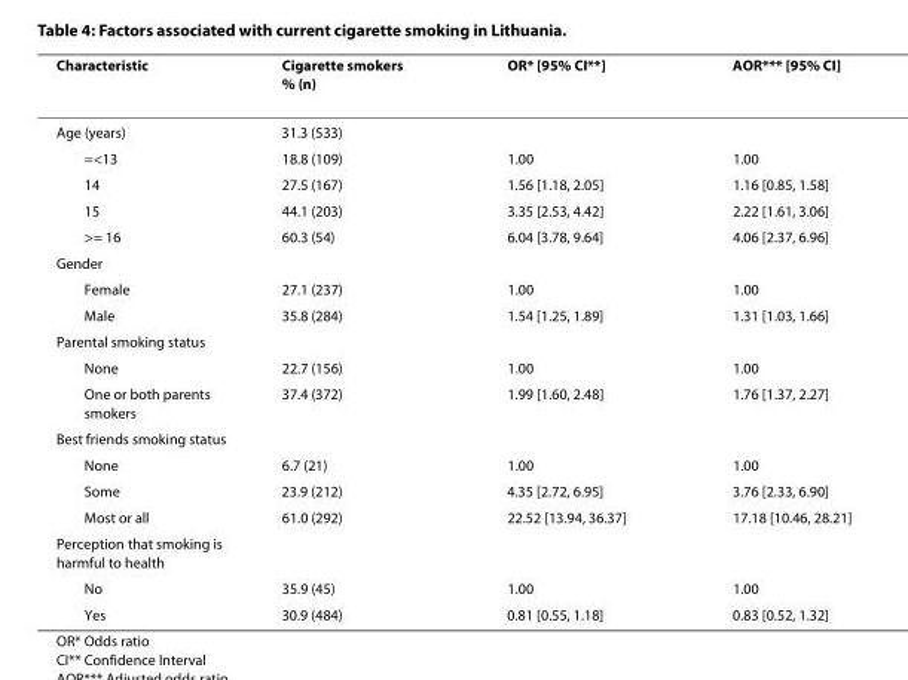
<table><thead><tr><td>Characteristic</td><td>Cigarette smokers % (n)</td><td>OR* [95% CI**]</td><td>AOR*** [95% CI]</td></tr></thead><tbody><tr><td>Age (years)</td><td>31.3 (533)</td><td></td><td></td></tr><tr><td>=&lt;13</td><td>18.8 (109)</td><td>1.00</td><td>1.00</td></tr><tr><td>14</td><td>27.5 (167)</td><td>1.56 [1.18, 2.05]</td><td>1.16 [0.85, 1.58]</td></tr><tr><td>15</td><td>44.1 (203)</td><td>3.35 [2.53, 4.42]</td><td>2.22 [1.61, 3.06]</td></tr><tr><td>&gt;= 16</td><td>60.3 (54)</td><td>6.04 [3.78, 9.64]</td><td>4.06 [2.37, 6.96]</td></tr><tr><td colspan="4">Gender</td></tr><tr><td>Female</td><td>27.1 (237)</td><td>1.00</td><td>1.00</td></tr><tr><td>Male</td><td>35.8 (284)</td><td>1.54 [1.25, 1.89]</td><td>1.31 [1.03, 1.66]</td></tr><tr><td colspan="4">Parental smoking status</td></tr><tr><td>None</td><td>22.7 (156)</td><td>1.00</td><td>1.00</td></tr><tr><td>One or both parents smokers</td><td>37.4 (372)</td><td>1.99 [1.60, 2.48]</td><td>1.76 [1.37, 2.27]</td></tr><tr><td colspan="4">Best friends smoking status</td></tr><tr><td>None</td><td>6.7 (21)</td><td>1.00</td><td>1.00</td></tr><tr><td>Some</td><td>23.9 (212)</td><td>4.35 [2.72, 6.95]</td><td>3.76 [2.33, 6.90]</td></tr><tr><td>Most or all</td><td>61.0 (292)</td><td>22.52 [13.94, 36.37]</td><td>17.18 [10.46, 28.21]</td></tr><tr><td colspan="4">Perception that smoking is harmful to health</td></tr><tr><td>No</td><td>35.9 (45)</td><td>1.00</td><td>1.00</td></tr><tr><td>Yes</td><td>30.9 (484)</td><td>0.81 [0.55, 1.18]</td><td>0.83 [0.52, 1.32]</td></tr></tbody></table>